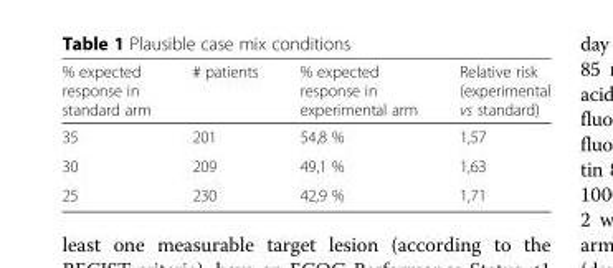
<table><thead><tr><td>% expected response in standard arm</td><td># patients</td><td>% expected response in experimental arm</td><td>Relative risk (experimental vs standard)</td></tr></thead><tbody><tr><td>35</td><td>201</td><td>54,8 %</td><td>1,57</td></tr><tr><td>30</td><td>209</td><td>49,1 %</td><td>1,63</td></tr><tr><td>25</td><td>230</td><td>42,9 %</td><td>1,71</td></tr></tbody></table>